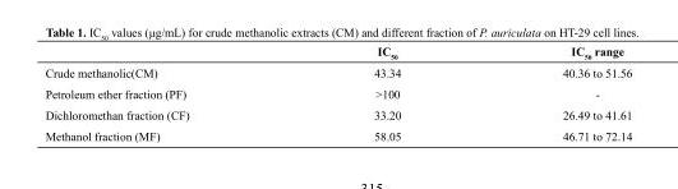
<table><thead><tr><td></td><td>IC<sub>50</sub></td><td>IC<sub>50</sub> range</td></tr></thead><tbody><tr><td>Crude methanolic(CM)</td><td>43.34</td><td>40.36 to 51.56</td></tr><tr><td>Petroleum ether fraction (PF)</td><td>&gt;100</td><td>-</td></tr><tr><td>Dichloromethan fraction (CF)</td><td>33.20</td><td>26.49 to 41.61</td></tr><tr><td>Methanol fraction (MF)</td><td>58.05</td><td>46.71 to 72.14</td></tr></tbody></table>